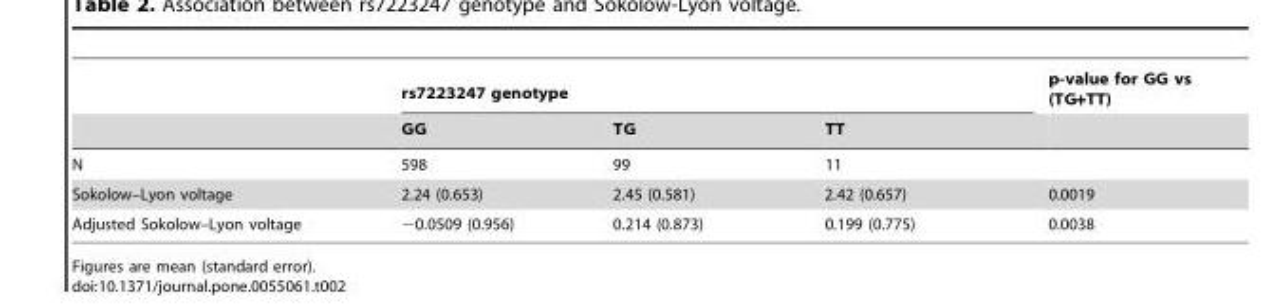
<table><thead><tr><td rowspan="2"></td><td colspan="3">rs7223247 genotype</td><td rowspan="2">p-value for GG vs (TG+TT)</td></tr><tr><td>GG</td><td>TG</td><td>TT</td></tr></thead><tbody><tr><td>N</td><td>598</td><td>99</td><td>11</td><td></td></tr><tr><td>Sokolow–Lyon voltage</td><td>2.24 (0.653)</td><td>2.45 (0.581)</td><td>2.42 (0.657)</td><td>0.0019</td></tr><tr><td>Adjusted Sokolow–Lyon voltage</td><td>−0.0509 (0.956)</td><td>0.214 (0.873)</td><td>0.199 (0.775)</td><td>0.0038</td></tr></tbody></table>